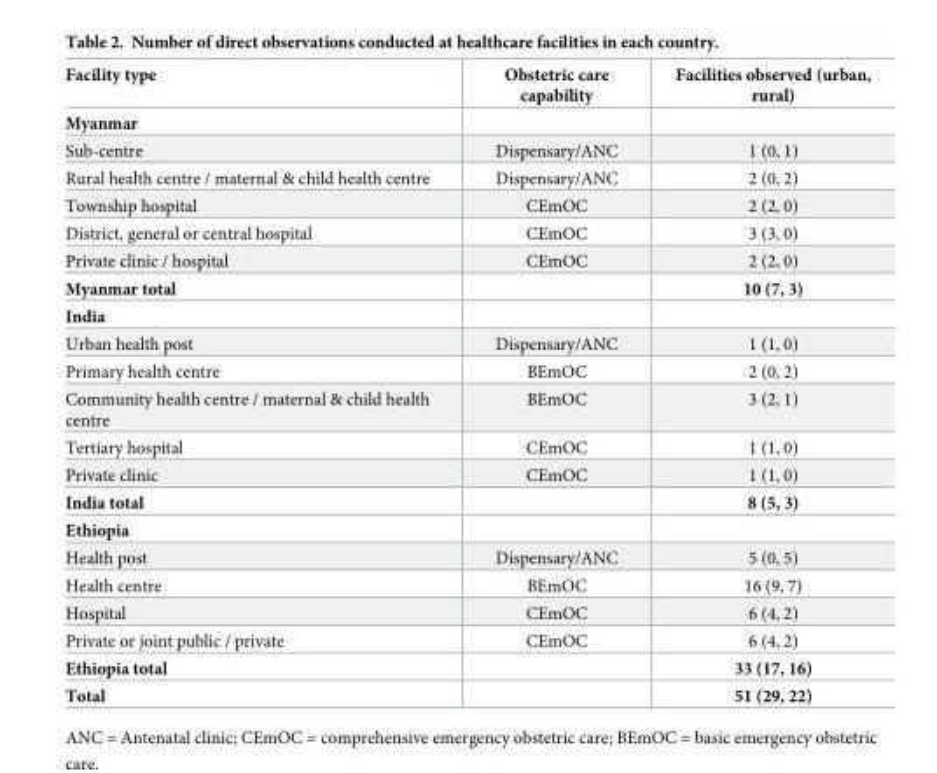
<table><thead><tr><td>Facility type</td><td>Obstetric care capability</td><td>Facilities observed (urban, rural)</td></tr></thead><tbody><tr><td colspan="3">Myanmar</td></tr><tr><td>Sub-centre</td><td>Dispensary/ANC</td><td>1 (0, 1)</td></tr><tr><td>Rural health centre / maternal &amp; child health centre</td><td>Dispensary/ANC</td><td>2 (0, 2)</td></tr><tr><td>Township hospital</td><td>CEmOC</td><td>2 (2, 0)</td></tr><tr><td>District, general or central hospital</td><td>CEmOC</td><td>3 (3, 0)</td></tr><tr><td>Private clinic / hospital</td><td>CEmOC</td><td>2 (2, 0)</td></tr><tr><td>Myanmar total</td><td></td><td>10 (7, 3)</td></tr><tr><td colspan="3">India</td></tr><tr><td>Urban health post</td><td>Dispensary/ANC</td><td>1 (1, 0)</td></tr><tr><td>Primary health centre</td><td>BEmOC</td><td>2 (0, 2)</td></tr><tr><td>Community health centre / maternal &amp; child health centre</td><td>BEmOC</td><td>3 (2, 1)</td></tr><tr><td>Tertiary hospital</td><td>CEmOC</td><td>1 (1, 0)</td></tr><tr><td>Private clinic</td><td>CEmOC</td><td>1 (1, 0)</td></tr><tr><td>India total</td><td></td><td>8 (5, 3)</td></tr><tr><td colspan="3">Ethiopia</td></tr><tr><td>Health post</td><td>Dispensary/ANC</td><td>5 (0, 5)</td></tr><tr><td>Health centre</td><td>BEmOC</td><td>16 (9, 7)</td></tr><tr><td>Hospital</td><td>CEmOC</td><td>6 (4, 2)</td></tr><tr><td>Private or joint public / private</td><td>CEmOC</td><td>6 (4, 2)</td></tr><tr><td>Ethiopia total</td><td></td><td>33 (17, 16)</td></tr><tr><td>Total</td><td></td><td>51 (29, 22)</td></tr></tbody></table>